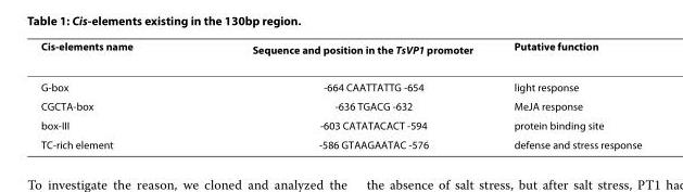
<table><thead><tr><td>Cis-elements name</td><td>Sequence and position in the TsVP1 promoter</td><td>Putative function</td></tr></thead><tbody><tr><td>G-box</td><td>-664 CAATTATTG -654</td><td>light response</td></tr><tr><td>CGCTA-box</td><td>-636 TGACG -632</td><td>MeJA response</td></tr><tr><td>box-III</td><td>-603 CATATACACT -594</td><td>protein binding site</td></tr><tr><td>TC-rich element</td><td>-586 GTAAGAATAC -576</td><td>defense and stress response</td></tr></tbody></table>